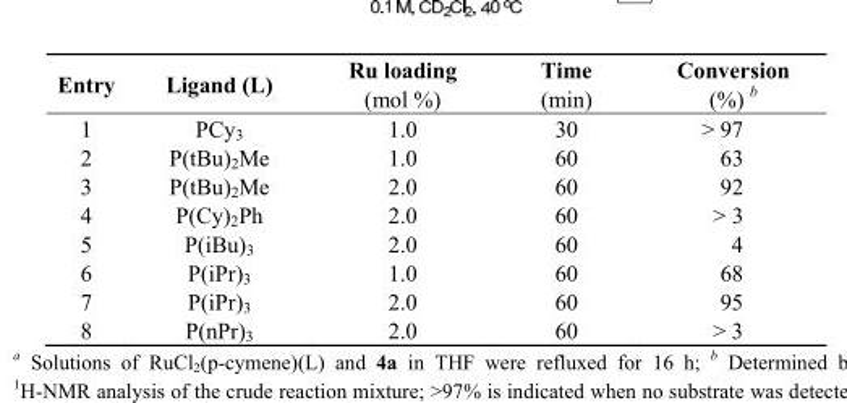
<table><tbody><tr><td>Entry</td><td>Ligand (L)</td><td>Ru loading (mol %)</td><td>Time (min)</td><td>Conversion (%) b</td></tr><tr><td>1</td><td>PCy3</td><td>1.0</td><td>30</td><td>&gt; 97</td></tr><tr><td>2</td><td>P(tBu)2Me</td><td>1.0</td><td>60</td><td>63</td></tr><tr><td>3</td><td>P(tBu)2Me</td><td>2.0</td><td>60</td><td>92</td></tr><tr><td>4</td><td>P(Cy)2Ph</td><td>2.0</td><td>60</td><td>&gt; 3</td></tr><tr><td>5</td><td>P(iBu)3</td><td>2.0</td><td>60</td><td>4</td></tr><tr><td>6</td><td>P(iPr)3</td><td>1.0</td><td>60</td><td>68</td></tr><tr><td>7</td><td>P(iPr)3</td><td>2.0</td><td>60</td><td>95</td></tr><tr><td>8</td><td>P(nPr)3</td><td>2.0</td><td>60</td><td>&gt; 3</td></tr></tbody></table>